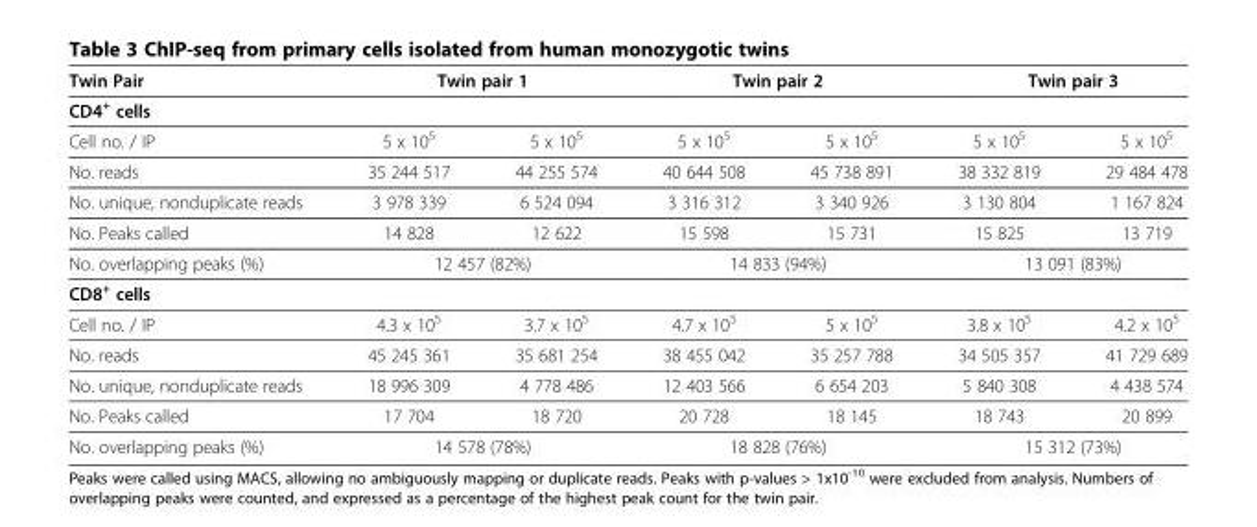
<table><thead><tr><td>Twin Pair</td><td colspan="2">Twin pair 1</td><td colspan="2">Twin pair 2</td><td colspan="2">Twin pair 3</td></tr><tr><td colspan="7">CD4<sup>+</sup> cells</td></tr><tr><td>Cell no. / IP</td><td>5 x 10<sup>5</sup></td><td>5 x 10<sup>5</sup></td><td>5 x 10<sup>5</sup></td><td>5 x 10<sup>5</sup></td><td>5 x 10<sup>5</sup></td><td>5 x 10<sup>5</sup></td></tr></thead><tbody><tr><td>No. reads</td><td>35 244 517</td><td>44 255 574</td><td>40 644 508</td><td>45 738 891</td><td>38 332 819</td><td>29 484 478</td></tr><tr><td>No. unique, nonduplicate reads</td><td>3 978 339</td><td>6 524 094</td><td>3 316 312</td><td>3 340 926</td><td>3 130 804</td><td>1 167 824</td></tr><tr><td>No. Peaks called</td><td>14 828</td><td>12 622</td><td>15 598</td><td>15 731</td><td>15 825</td><td>13 719</td></tr><tr><td>No. overlapping peaks (%)</td><td colspan="2">12 457 (82%)</td><td colspan="2">14 833 (94%)</td><td colspan="2">13 091 (83%)</td></tr><tr><td colspan="7">CD8<sup>+</sup> cells</td></tr><tr><td>Cell no. / IP</td><td>4.3 x 10<sup>5</sup></td><td>3.7 x 10<sup>5</sup></td><td>4.7 x 10<sup>5</sup></td><td>5 x 10<sup>5</sup></td><td>3.8 x 10<sup>5</sup></td><td>4.2 x 10<sup>5</sup></td></tr><tr><td>No. reads</td><td>45 245 361</td><td>35 681 254</td><td>38 455 042</td><td>35 257 788</td><td>34 505 357</td><td>41 729 689</td></tr><tr><td>No. unique, nonduplicate reads</td><td>18 996 309</td><td>4 778 486</td><td>12 403 566</td><td>6 654 203</td><td>5 840 308</td><td>4 438 574</td></tr><tr><td>No. Peaks called</td><td>17 704</td><td>18 720</td><td>20 728</td><td>18 145</td><td>18 743</td><td>20 899</td></tr><tr><td>No. overlapping peaks (%)</td><td colspan="2">14 578 (78%)</td><td colspan="2">18 828 (76%)</td><td colspan="2">15 312 (73%)</td></tr></tbody></table>